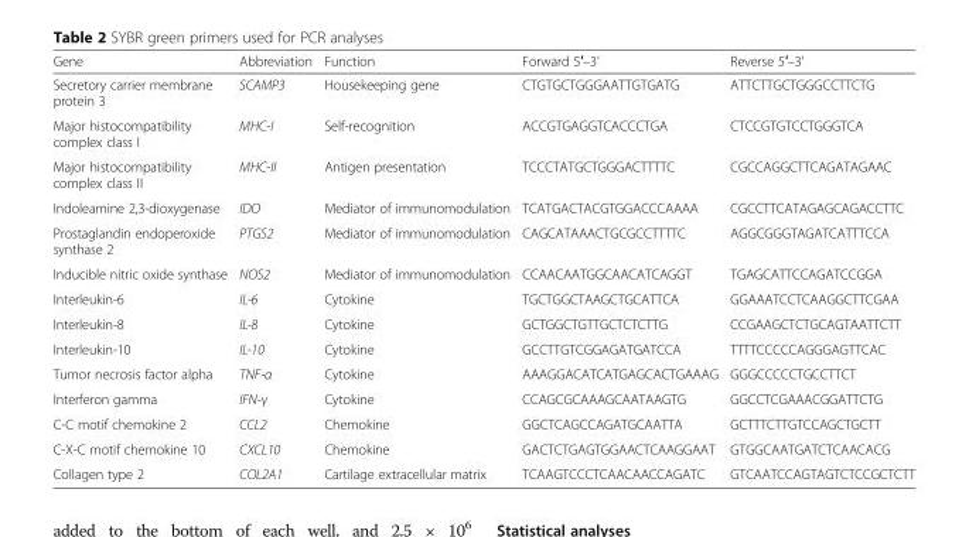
<table><thead><tr><td>Gene</td><td>Abbreviation</td><td>Function</td><td>Forward 5′–3’</td><td>Reverse 5′–3’</td></tr></thead><tbody><tr><td>Secretory carrier membrane protein 3</td><td>SCAMP3</td><td>Housekeeping gene</td><td>CTGTGCTGGGAATTGTGATG</td><td>ATTCTTGCTGGGCCTTCTG</td></tr><tr><td>Major histocompatibility complex class I</td><td>MHC-I</td><td>Self-recognition</td><td>ACCGTGAGGTCACCCTGA</td><td>CTCCGTGTCCTGGGTCA</td></tr><tr><td>Major histocompatibility complex class II</td><td>MHC-II</td><td>Antigen presentation</td><td>TCCCTATGCTGGGACTTTTC</td><td>CGCCAGGCTTCAGATAGAAC</td></tr><tr><td>Indoleamine 2,3-dioxygenase</td><td>IDO</td><td>Mediator of immunomodulation</td><td>TCATGACTACGTGGACCCAAAA</td><td>CGCCTTCATAGAGCAGACCTTC</td></tr><tr><td>Prostaglandin endoperoxide synthase 2</td><td>PTGS2</td><td>Mediator of immunomodulation</td><td>CAGCATAAACTGCGCCTTTTC</td><td>AGGCGGGTAGATCATTTCCA</td></tr><tr><td>Inducible nitric oxide synthase</td><td>NOS2</td><td>Mediator of immunomodulation</td><td>CCAACAATGGCAACATCAGGT</td><td>TGAGCATTCCAGATCCGGA</td></tr><tr><td>Interleukin-6</td><td>IL-6</td><td>Cytokine</td><td>TGCTGGCTAAGCTGCATTCA</td><td>GGAAATCCTCAAGGCTTCGAA</td></tr><tr><td>Interleukin-8</td><td>IL-8</td><td>Cytokine</td><td>GCTGGCTGTTGCTCTCTTG</td><td>CCGAAGCTCTGCAGTAATTCTT</td></tr><tr><td>Interleukin-10</td><td>IL-10</td><td>Cytokine</td><td>GCCTTGTCGGAGATGATCCA</td><td>TTTTCCCCCAGGGAGTTCAC</td></tr><tr><td>Tumor necrosis factor alpha</td><td>TNF-α</td><td>Cytokine</td><td>AAAGGACATCATGAGCACTGAAAG</td><td>GGGCCCCCTGCCTTCT</td></tr><tr><td>Interferon gamma</td><td>IFN-γ</td><td>Cytokine</td><td>CCAGCGCAAAGCAATAAGTG</td><td>GGCCTCGAAACGGATTCTG</td></tr><tr><td>C-C motif chemokine 2</td><td>CCL2</td><td>Chemokine</td><td>GGCTCAGCCAGATGCAATTA</td><td>GCTTTCTTGTCCAGCTGCTT</td></tr><tr><td>C-X-C motif chemokine 10</td><td>CXCL10</td><td>Chemokine</td><td>GACTCTGAGTGGAACTCAAGGAAT</td><td>GTGGCAATGATCTCAACACG</td></tr><tr><td>Collagen type 2</td><td>COL2A1</td><td>Cartilage extracellular matrix</td><td>TCAAGTCCCTCAACAACCAGATC</td><td>GTCAATCCAGTAGTCTCCGCTCTT</td></tr></tbody></table>